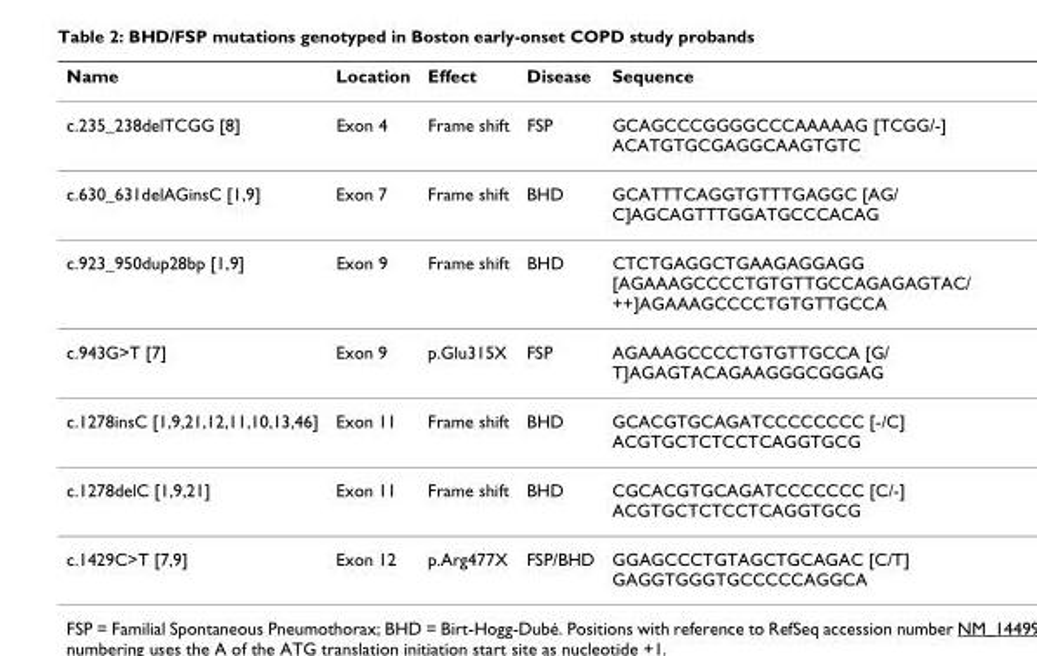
<table><thead><tr><td>Name</td><td>Location</td><td>Effect</td><td>Disease</td><td>Sequence</td></tr></thead><tbody><tr><td>c.235_238delTCGG [8]</td><td>Exon 4</td><td>Frame shift</td><td>FSP</td><td>GCAGCCCGGGGCCCAAAAAG [TCGG/-] ACATGTGCGAGGCAAGTGTC</td></tr><tr><td>c.630_631delAGinsC [1,9]</td><td>Exon 7</td><td>Frame shift</td><td>BHD</td><td>GCATTTCAGGTGTTTGAGGC [AG/ C]AGCAGTTTGGATGCCCACAG</td></tr><tr><td>c.923_950dup28bp [1,9]</td><td>Exon 9</td><td>Frame shift</td><td>BHD</td><td>CTCTGAGGCTGAAGAGGAGG [AGAAAGCCCCTGTGTTGCCAGAGAGTAC/ ++]AGAAAGCCCCTGTGTTGCCA</td></tr><tr><td>c.943G&gt;T [7]</td><td>Exon 9</td><td>p.Glu315X</td><td>FSP</td><td>AGAAAGCCCCTGTGTTGCCA [G/ T]AGAGTACAGAAGGGCGGGAG</td></tr><tr><td>c.1278insC [1,9,21,12,11,10,13,46]</td><td>Exon 11</td><td>Frame shift</td><td>BHD</td><td>GCACGTGCAGATCCCCCCCC [-/C] ACGTGCTCTCCTCAGGTGCG</td></tr><tr><td>c.1278delC [1,9,21]</td><td>Exon 11</td><td>Frame shift</td><td>BHD</td><td>CGCACGTGCAGATCCCCCCC [C/-] ACGTGCTCTCCTCAGGTGCG</td></tr><tr><td>c.1429C&gt;T [7,9]</td><td>Exon 12</td><td>p.Arg477X</td><td>FSP/BHD</td><td>GGAGCCCTGTAGCTGCAGAC [C/T] GAGGTGGGTGCCCCCAGGCA</td></tr></tbody></table>